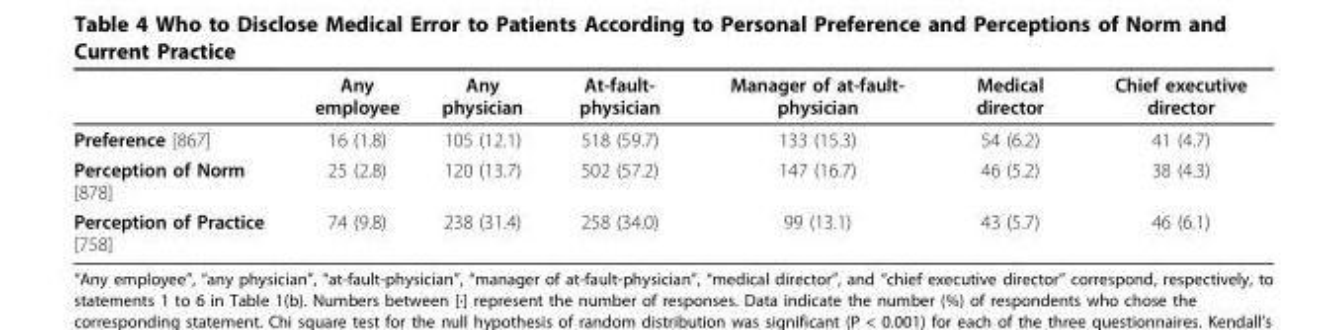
<table><thead><tr><td></td><td>Any employee</td><td>Any physician</td><td>At-fault- physician</td><td>Manager of at-fault- physician</td><td>Medical director</td><td>Chief executive director</td></tr></thead><tbody><tr><td>Preference [867]</td><td>16 (1.8)</td><td>105 (12.1)</td><td>518 (59.7)</td><td>133 (15.3)</td><td>54 (6.2)</td><td>41 (4.7)</td></tr><tr><td>Perception of Norm [878]</td><td>25 (2.8)</td><td>120 (13.7)</td><td>502 (57.2)</td><td>147 (16.7)</td><td>46 (5.2)</td><td>38 (4.3)</td></tr><tr><td>Perception of Practice [758]</td><td>74 (9.8)</td><td>238 (31.4)</td><td>258 (34.0)</td><td>99 (13.1)</td><td>43 (5.7)</td><td>46 (6.1)</td></tr></tbody></table>